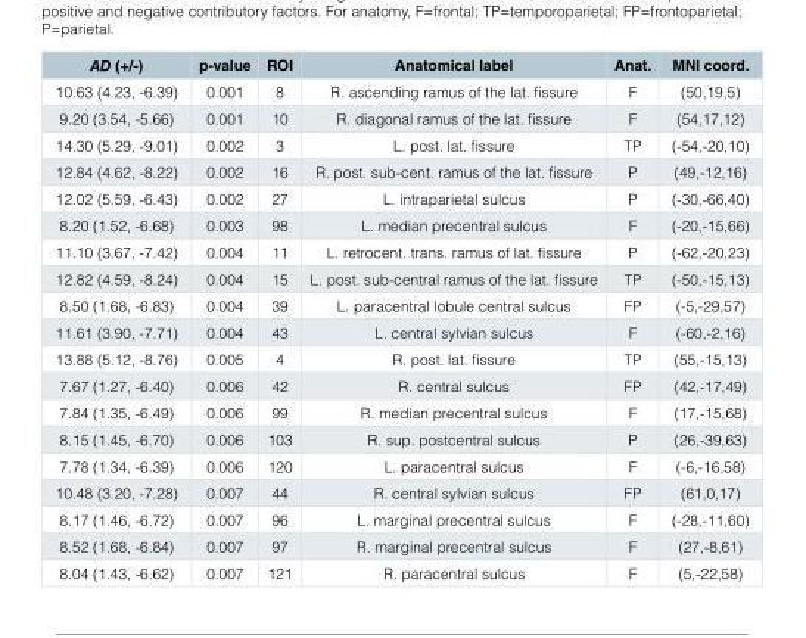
<table><thead><tr><td>AD (+/-)</td><td>p-value</td><td>ROI</td><td>Anatomical label</td><td>Anat.</td><td>MNI coord.</td></tr></thead><tbody><tr><td>10.63 (4.23, -6.39)</td><td>0.001</td><td>8</td><td>R. ascending ramus of the lat. fissure</td><td>F</td><td>(50,19,5)</td></tr><tr><td>9.20 (3.54, -5.66)</td><td>0.001</td><td>10</td><td>R. diagonal ramus of the lat. fissure</td><td>F</td><td>(54,17,12)</td></tr><tr><td>14.30 (5.29, -9.01)</td><td>0.002</td><td>3</td><td>L. post. lat. fissure</td><td>TP</td><td>(-54,-20,10)</td></tr><tr><td>12.84 (4.62, -8.22)</td><td>0.002</td><td>16</td><td>R. post. sub-cent. ramus of the lat. fissure</td><td>P</td><td>(49,-12,16)</td></tr><tr><td>12.02 (5.59, -6.43)</td><td>0.002</td><td>27</td><td>L. intraparietal sulcus</td><td>P</td><td>(-30,-66,40)</td></tr><tr><td>8.20 (1.52, -6.68)</td><td>0.003</td><td>98</td><td>L. median precentral sulcus</td><td>F</td><td>(-20,-15,66)</td></tr><tr><td>11.10 (3.67, -7.42)</td><td>0.004</td><td>11</td><td>L. retrocent. trans. ramus of lat. fissure</td><td>P</td><td>(-62,-20,23)</td></tr><tr><td>12.82 (4.59, -8.24)</td><td>0.004</td><td>15</td><td>L. post. sub-central ramus of the lat. fissure</td><td>TP</td><td>(-50,-15,13)</td></tr><tr><td>8.50 (1.68, -6.83)</td><td>0.004</td><td>39</td><td>L. paracentral lobule central sulcus</td><td>FP</td><td>(-5,-29,57)</td></tr><tr><td>11.61 (3.90, -7.71)</td><td>0.004</td><td>43</td><td>L. central sylvian sulcus</td><td>F</td><td>(-60,-2,16)</td></tr><tr><td>13.88 (5.12, -8.76)</td><td>0.005</td><td>4</td><td>R. post. lat. fissure</td><td>TP</td><td>(55,-15,13)</td></tr><tr><td>7.67 (1.27, -6.40)</td><td>0.006</td><td>42</td><td>R. central sulcus</td><td>FP</td><td>(42,-17,49)</td></tr><tr><td>7.84 (1.35, -6.49)</td><td>0.006</td><td>99</td><td>R. median precentral sulcus</td><td>F</td><td>(17,-15,68)</td></tr><tr><td>8.15 (1.45, -6.70)</td><td>0.006</td><td>103</td><td>R. sup. postcentral sulcus</td><td>P</td><td>(26,-39,63)</td></tr><tr><td>7.78 (1.34, -6.39)</td><td>0.006</td><td>120</td><td>L. paracentral sulcus</td><td>F</td><td>(-6,-16,58)</td></tr><tr><td>10.48 (3.20, -7.28)</td><td>0.007</td><td>44</td><td>R. central sylvian sulcus</td><td>FP</td><td>(61,0,17)</td></tr><tr><td>8.17 (1.46, -6.72)</td><td>0.007</td><td>96</td><td>L. marginal precentral sulcus</td><td>F</td><td>(-28,-11,60)</td></tr><tr><td>8.52 (1.68, -6.84)</td><td>0.007</td><td>97</td><td>R. marginal precentral sulcus</td><td>F</td><td>(27,-8,61)</td></tr><tr><td>8.04 (1.43, -6.62)</td><td>0.007</td><td>121</td><td>R. paracentral sulcus</td><td>F</td><td>(5,-22,58)</td></tr></tbody></table>